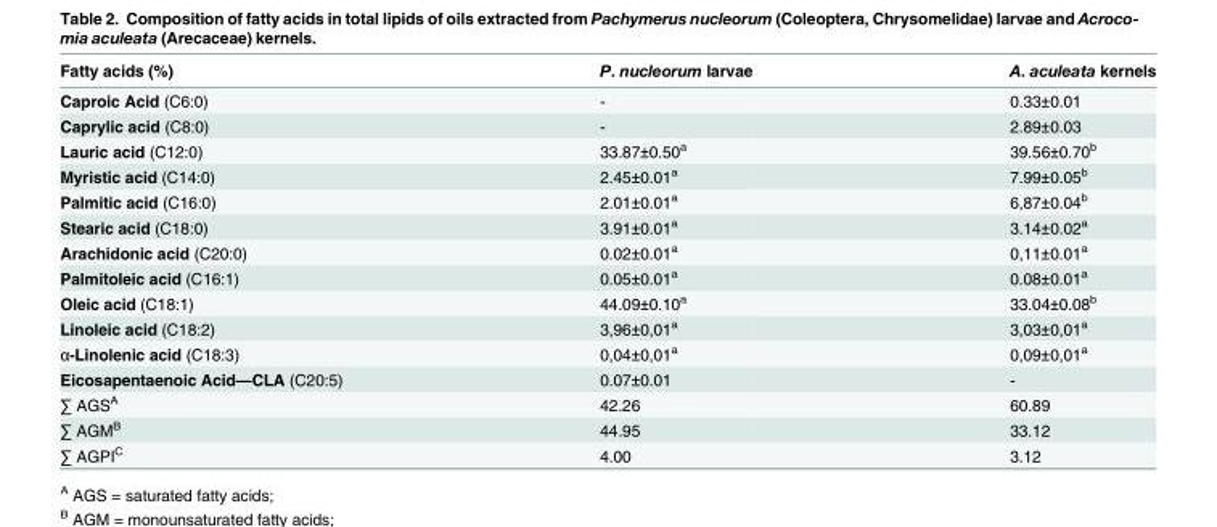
<table><thead><tr><td>Fatty acids (%)</td><td>P. nucleorum larvae</td><td>A. aculeata kernels</td></tr></thead><tbody><tr><td>Caproic Acid (C6:0)</td><td>-</td><td>0.33±0.01</td></tr><tr><td>Caprylic acid (C8:0)</td><td>-</td><td>2.89±0.03</td></tr><tr><td>Lauric acid (C12:0)</td><td>33.87±0.50<sup>a</sup></td><td>39.56±0.70<sup>b</sup></td></tr><tr><td>Myristic acid (C14:0)</td><td>2.45±0.01<sup>a</sup></td><td>7.99±0.05<sup>b</sup></td></tr><tr><td>Palmitic acid (C16:0)</td><td>2.01±0.01<sup>a</sup></td><td>6,87±0.04<sup>b</sup></td></tr><tr><td>Stearic acid (C18:0)</td><td>3.91±0.01<sup>a</sup></td><td>3.14±0.02<sup>a</sup></td></tr><tr><td>Arachidonic acid (C20:0)</td><td>0.02±0.01<sup>a</sup></td><td>0,11±0.01<sup>a</sup></td></tr><tr><td>Palmitoleic acid (C16:1)</td><td>0.05±0.01<sup>a</sup></td><td>0.08±0.01<sup>a</sup></td></tr><tr><td>Oleic acid (C18:1)</td><td>44.09±0.10<sup>a</sup></td><td>33.04±0.08<sup>b</sup></td></tr><tr><td>Linoleic acid (C18:2)</td><td>3,96±0,01<sup>a</sup></td><td>3,03±0,01<sup>a</sup></td></tr><tr><td>α-Linolenic acid (C18:3)</td><td>0,04±0,01<sup>a</sup></td><td>0,09±0,01<sup>a</sup></td></tr><tr><td>Eicosapentaenoic Acid—CLA (C20:5)</td><td>0.07±0.01</td><td>-</td></tr><tr><td>∑ AGS<sup>A</sup></td><td>42.26</td><td>60.89</td></tr><tr><td>∑ AGM<sup>B</sup></td><td>44.95</td><td>33.12</td></tr><tr><td>∑ AGPI<sup>C</sup></td><td>4.00</td><td>3.12</td></tr></tbody></table>